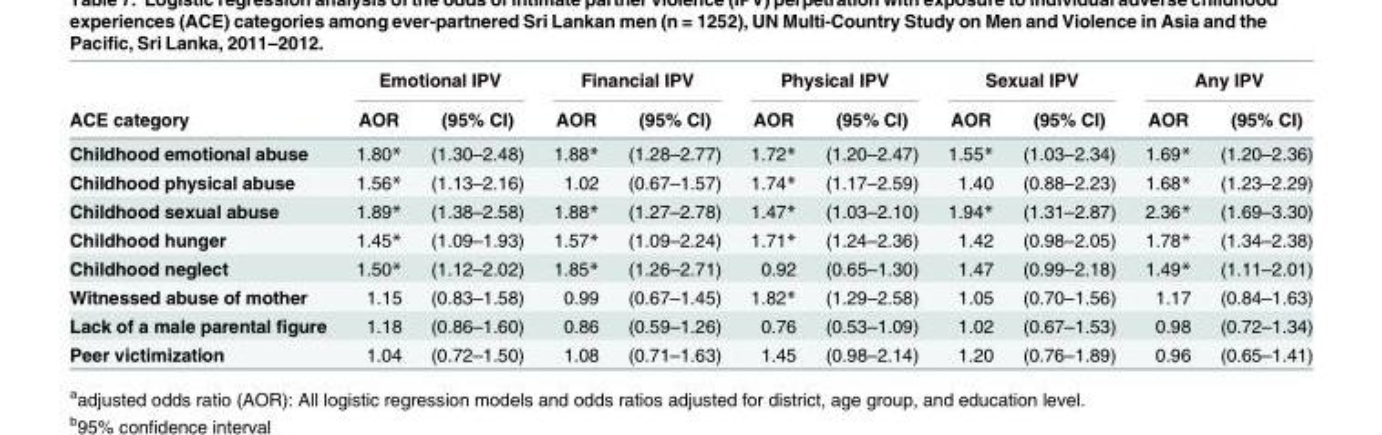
<table><thead><tr><td rowspan="2">ACE category</td><td colspan="2">Emotional IPV</td><td colspan="2">Financial IPV</td><td colspan="2">Physical IPV</td><td colspan="2">Sexual IPV</td><td colspan="2">Any IPV</td></tr><tr><td>AOR</td><td>(95% CI)</td><td>AOR</td><td>(95% CI)</td><td>AOR</td><td>(95% CI)</td><td>AOR</td><td>(95% CI)</td><td>AOR</td><td>(95% CI)</td></tr></thead><tbody><tr><td>Childhood emotional abuse</td><td>1.80*</td><td>(1.30–2.48)</td><td>1.88*</td><td>(1.28–2.77)</td><td>1.72*</td><td>(1.20–2.47)</td><td>1.55*</td><td>(1.03–2.34)</td><td>1.69*</td><td>(1.20–2.36)</td></tr><tr><td>Childhood physical abuse</td><td>1.56*</td><td>(1.13–2.16)</td><td>1.02</td><td>(0.67–1.57)</td><td>1.74*</td><td>(1.17–2.59)</td><td>1.40</td><td>(0.88–2.23)</td><td>1.68*</td><td>(1.23–2.29)</td></tr><tr><td>Childhood sexual abuse</td><td>1.89*</td><td>(1.38–2.58)</td><td>1.88*</td><td>(1.27–2.78)</td><td>1.47*</td><td>(1.03–2.10)</td><td>1.94*</td><td>(1.31–2.87)</td><td>2.36*</td><td>(1.69–3.30)</td></tr><tr><td>Childhood hunger</td><td>1.45*</td><td>(1.09–1.93)</td><td>1.57*</td><td>(1.09–2.24)</td><td>1.71*</td><td>(1.24–2.36)</td><td>1.42</td><td>(0.98–2.05)</td><td>1.78*</td><td>(1.34–2.38)</td></tr><tr><td>Childhood neglect</td><td>1.50*</td><td>(1.12–2.02)</td><td>1.85*</td><td>(1.26–2.71)</td><td>0.92</td><td>(0.65–1.30)</td><td>1.47</td><td>(0.99–2.18)</td><td>1.49*</td><td>(1.11–2.01)</td></tr><tr><td>Witnessed abuse of mother</td><td>1.15</td><td>(0.83–1.58)</td><td>0.99</td><td>(0.67–1.45)</td><td>1.82*</td><td>(1.29–2.58)</td><td>1.05</td><td>(0.70–1.56)</td><td>1.17</td><td>(0.84–1.63)</td></tr><tr><td>Lack of a male parental figure</td><td>1.18</td><td>(0.86–1.60)</td><td>0.86</td><td>(0.59–1.26)</td><td>0.76</td><td>(0.53–1.09)</td><td>1.02</td><td>(0.67–1.53)</td><td>0.98</td><td>(0.72–1.34)</td></tr><tr><td>Peer victimization</td><td>1.04</td><td>(0.72–1.50)</td><td>1.08</td><td>(0.71–1.63)</td><td>1.45</td><td>(0.98–2.14)</td><td>1.20</td><td>(0.76–1.89)</td><td>0.96</td><td>(0.65–1.41)</td></tr></tbody></table>